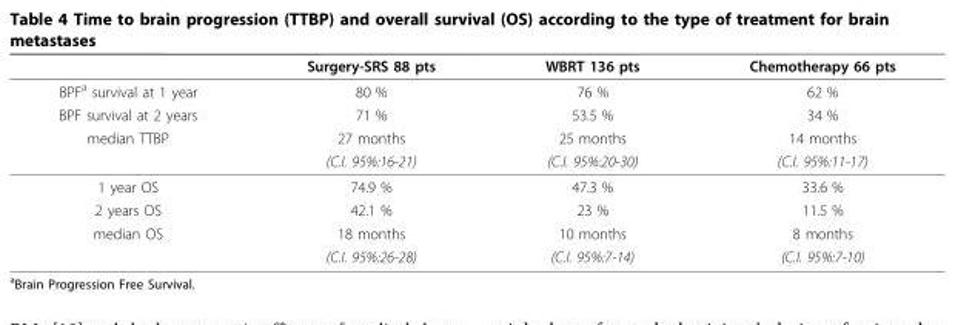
<table><thead><tr><td></td><td>Surgery-SRS 88 pts</td><td>WBRT 136 pts</td><td>Chemotherapy 66 pts</td></tr></thead><tbody><tr><td>BPF<sup>a</sup> survival at 1 year</td><td>80 %</td><td>76 %</td><td>62 %</td></tr><tr><td>BPF survival at 2 years</td><td>71 %</td><td>53.5 %</td><td>34 %</td></tr><tr><td rowspan="2">median TTBP</td><td>27 months</td><td>25 months</td><td>14 months</td></tr><tr><td>(C.I. 95%:16-21)</td><td>(C.I. 95%:20-30)</td><td>(C.I. 95%:11-17)</td></tr><tr><td>1 year OS</td><td>74.9 %</td><td>47.3 %</td><td>33.6 %</td></tr><tr><td>2 years OS</td><td>42.1 %</td><td>23 %</td><td>11.5 %</td></tr><tr><td rowspan="2">median OS</td><td>18 months</td><td>10 months</td><td>8 months</td></tr><tr><td>(C.I. 95%:26-28)</td><td>(C.I. 95%:7-14)</td><td>(C.I. 95%:7-10)</td></tr></tbody></table>